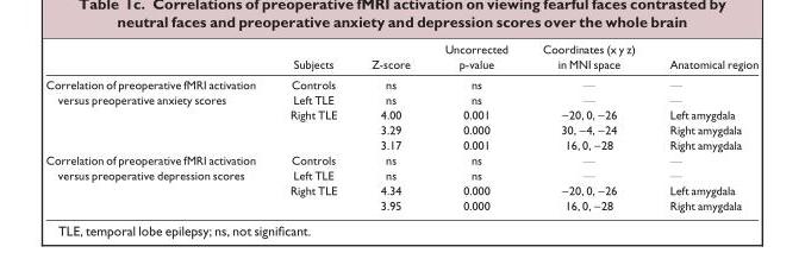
<table><thead><tr><td rowspan="2"></td><td rowspan="2">Subjects</td><td rowspan="2">Z-score</td><td rowspan="2">Uncorrected p-value</td><td rowspan="2">Coordinates (x y z) in MNI space</td><td rowspan="2">Anatomical region</td></tr><tr></tr></thead><tbody><tr><td>Correlation of preoperative fMRI activation</td><td>Controls</td><td>ns</td><td>ns</td><td>—</td><td>—</td></tr><tr><td rowspan="2">versus preoperative anxiety scores</td><td>Left TLE</td><td>ns</td><td>ns</td><td>—</td><td>—</td></tr><tr><td>Right TLE</td><td>4.00</td><td>0.001</td><td>−20, 0, −26</td><td>Left amygdala</td></tr><tr><td colspan="2"></td><td>3.29</td><td>0.000</td><td>30, −4, −24</td><td>Right amygdala</td></tr><tr><td colspan="2"></td><td>3.17</td><td>0.001</td><td>16, 0, −28</td><td>Right amygdala</td></tr><tr><td>Correlation of preoperative fMRI activation</td><td>Controls</td><td>ns</td><td>ns</td><td>—</td><td>—</td></tr><tr><td rowspan="2">versus preoperative depression scores</td><td>Left TLE</td><td>ns</td><td>ns</td><td>—</td><td>—</td></tr><tr><td>Right TLE</td><td>4.34</td><td>0.000</td><td>−20, 0, −26</td><td>Left amygdala</td></tr><tr><td colspan="2"></td><td>3.95</td><td>0.000</td><td>16, 0, −28</td><td>Right amygdala</td></tr></tbody></table>